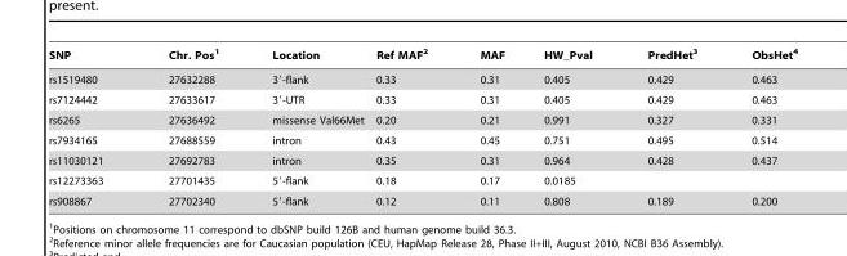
<table><thead><tr><td>SNP</td><td>Chr. Pos<sup>1</sup></td><td>Location</td><td>Ref MAF<sup>2</sup></td><td>MAF</td><td>HW_Pval</td><td>PredHet<sup>3</sup></td><td>ObsHet<sup>4</sup></td></tr></thead><tbody><tr><td>rs1519480</td><td>27632288</td><td>3′-flank</td><td>0.33</td><td>0.31</td><td>0.405</td><td>0.429</td><td>0.463</td></tr><tr><td>rs7124442</td><td>27633617</td><td>3′-UTR</td><td>0.33</td><td>0.31</td><td>0.405</td><td>0.429</td><td>0.463</td></tr><tr><td>rs6265</td><td>27636492</td><td>missense Val66Met</td><td>0.20</td><td>0.21</td><td>0.991</td><td>0.327</td><td>0.331</td></tr><tr><td>rs7934165</td><td>27688559</td><td>intron</td><td>0.43</td><td>0.45</td><td>0.751</td><td>0.495</td><td>0.514</td></tr><tr><td>rs11030121</td><td>27692783</td><td>intron</td><td>0.35</td><td>0.31</td><td>0.964</td><td>0.428</td><td>0.437</td></tr><tr><td>rs12273363</td><td>27701435</td><td>5′-flank</td><td>0.18</td><td>0.17</td><td>0.0185</td><td></td><td></td></tr><tr><td>rs908867</td><td>27702340</td><td>5′-flank</td><td>0.12</td><td>0.11</td><td>0.808</td><td>0.189</td><td>0.200</td></tr></tbody></table>